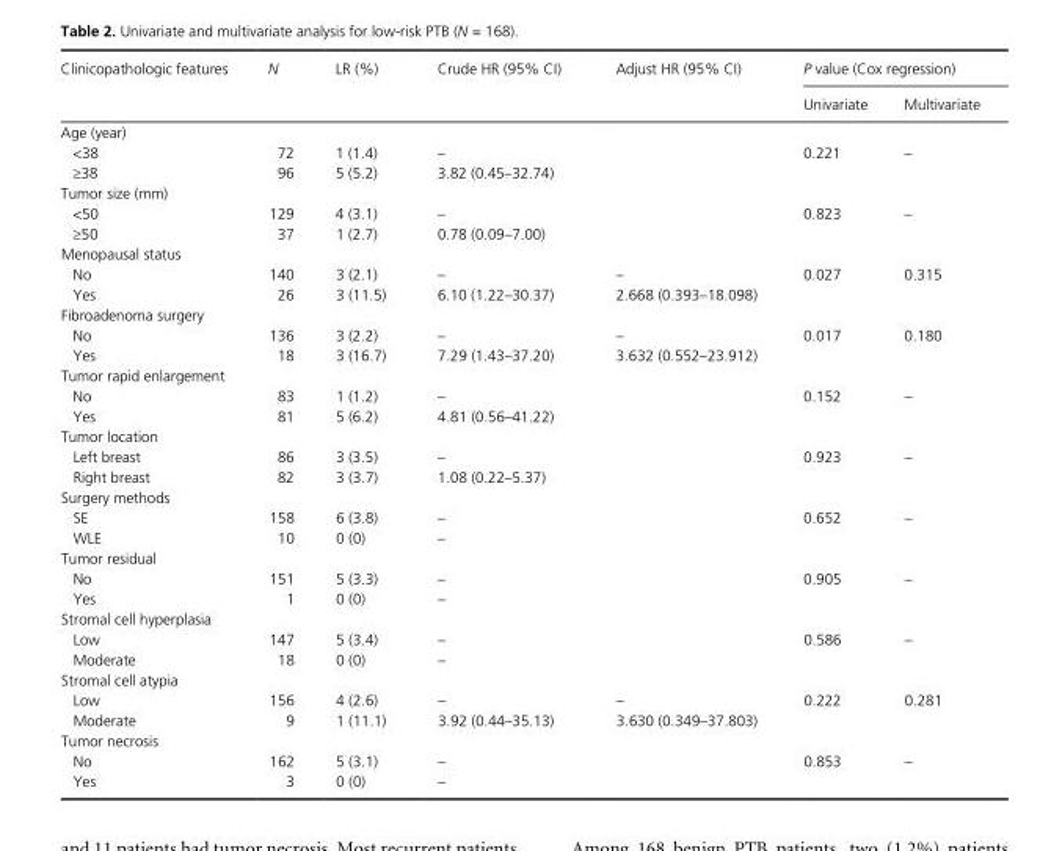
<table><thead><tr><td rowspan="2">Clinicopathologic features</td><td rowspan="2">N</td><td rowspan="2">LR (%)</td><td rowspan="2">Crude HR (95% CI)</td><td rowspan="2">Adjust HR (95% CI)</td><td colspan="2">P value (Cox regression)</td></tr><tr><td>Univariate</td><td>Multivariate</td></tr></thead><tbody><tr><td colspan="7">Age (year)</td></tr><tr><td>&lt;38</td><td>72</td><td>1 (1.4)</td><td>–</td><td></td><td rowspan="2">0.221</td><td rowspan="2">–</td></tr><tr><td>≥38</td><td>96</td><td>5 (5.2)</td><td>3.82 (0.45–32.74)</td><td></td></tr><tr><td colspan="7">Tumor size (mm)</td></tr><tr><td>&lt;50</td><td>129</td><td>4 (3.1)</td><td>–</td><td></td><td rowspan="2">0.823</td><td rowspan="2">–</td></tr><tr><td>≥50</td><td>37</td><td>1 (2.7)</td><td>0.78 (0.09–7.00)</td><td></td></tr><tr><td colspan="7">Menopausal status</td></tr><tr><td>No</td><td>140</td><td>3 (2.1)</td><td>–</td><td>–</td><td rowspan="2">0.027</td><td rowspan="2">0.315</td></tr><tr><td>Yes</td><td>26</td><td>3 (11.5)</td><td>6.10 (1.22–30.37)</td><td>2.668 (0.393–18.098)</td></tr><tr><td colspan="7">Fibroadenoma surgery</td></tr><tr><td>No</td><td>136</td><td>3 (2.2)</td><td>–</td><td>–</td><td rowspan="2">0.017</td><td rowspan="2">0.180</td></tr><tr><td>Yes</td><td>18</td><td>3 (16.7)</td><td>7.29 (1.43–37.20)</td><td>3.632 (0.552–23.912)</td></tr><tr><td colspan="7">Tumor rapid enlargement</td></tr><tr><td>No</td><td>83</td><td>1 (1.2)</td><td>–</td><td></td><td rowspan="2">0.152</td><td rowspan="2">–</td></tr><tr><td>Yes</td><td>81</td><td>5 (6.2)</td><td>4.81 (0.56–41.22)</td><td></td></tr><tr><td colspan="7">Tumor location</td></tr><tr><td>Left breast</td><td>86</td><td>3 (3.5)</td><td>–</td><td></td><td rowspan="2">0.923</td><td rowspan="2">–</td></tr><tr><td>Right breast</td><td>82</td><td>3 (3.7)</td><td>1.08 (0.22–5.37)</td><td></td></tr><tr><td colspan="7">Surgery methods</td></tr><tr><td>SE</td><td>158</td><td>6 (3.8)</td><td>–</td><td></td><td rowspan="2">0.652</td><td rowspan="2">–</td></tr><tr><td>WLE</td><td>10</td><td>0 (0)</td><td>–</td><td></td></tr><tr><td colspan="7">Tumor residual</td></tr><tr><td>No</td><td>151</td><td>5 (3.3)</td><td>–</td><td></td><td rowspan="2">0.905</td><td rowspan="2">–</td></tr><tr><td>Yes</td><td>1</td><td>0 (0)</td><td>–</td><td></td></tr><tr><td colspan="7">Stromal cell hyperplasia</td></tr><tr><td>Low</td><td>147</td><td>5 (3.4)</td><td>–</td><td></td><td rowspan="2">0.586</td><td rowspan="2">–</td></tr><tr><td>Moderate</td><td>18</td><td>0 (0)</td><td>–</td><td></td></tr><tr><td colspan="7">Stromal cell atypia</td></tr><tr><td>Low</td><td>156</td><td>4 (2.6)</td><td>–</td><td>–</td><td rowspan="2">0.222</td><td rowspan="2">0.281</td></tr><tr><td>Moderate</td><td>9</td><td>1 (11.1)</td><td>3.92 (0.44–35.13)</td><td>3.630 (0.349–37.803)</td></tr><tr><td colspan="7">Tumor necrosis</td></tr><tr><td>No</td><td>162</td><td>5 (3.1)</td><td>–</td><td></td><td rowspan="2">0.853</td><td rowspan="2">–</td></tr><tr><td>Yes</td><td>3</td><td>0 (0)</td><td>–</td><td></td></tr></tbody></table>